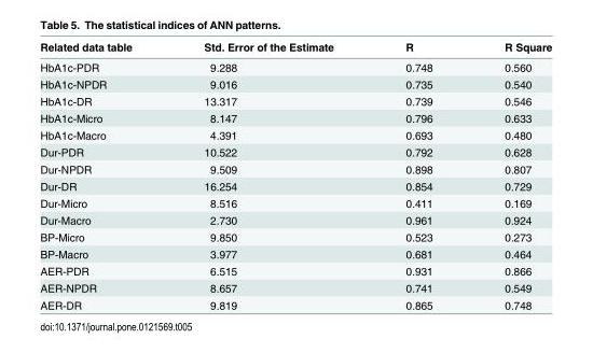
<table><thead><tr><td>Related data table</td><td>Std. Error of the Estimate</td><td>R</td><td>R Square</td></tr></thead><tbody><tr><td>HbA1c-PDR</td><td>9.288</td><td>0.748</td><td>0.560</td></tr><tr><td>HbA1c-NPDR</td><td>9.016</td><td>0.735</td><td>0.540</td></tr><tr><td>HbA1c-DR</td><td>13.317</td><td>0.739</td><td>0.546</td></tr><tr><td>HbA1c-Micro</td><td>8.147</td><td>0.796</td><td>0.633</td></tr><tr><td>HbA1c-Macro</td><td>4.391</td><td>0.693</td><td>0.480</td></tr><tr><td>Dur-PDR</td><td>10.522</td><td>0.792</td><td>0.628</td></tr><tr><td>Dur-NPDR</td><td>9.509</td><td>0.898</td><td>0.807</td></tr><tr><td>Dur-DR</td><td>16.254</td><td>0.854</td><td>0.729</td></tr><tr><td>Dur-Micro</td><td>8.516</td><td>0.411</td><td>0.169</td></tr><tr><td>Dur-Macro</td><td>2.730</td><td>0.961</td><td>0.924</td></tr><tr><td>BP-Micro</td><td>9.850</td><td>0.523</td><td>0.273</td></tr><tr><td>BP-Macro</td><td>3.977</td><td>0.681</td><td>0.464</td></tr><tr><td>AER-PDR</td><td>6.515</td><td>0.931</td><td>0.866</td></tr><tr><td>AER-NPDR</td><td>8.657</td><td>0.741</td><td>0.549</td></tr><tr><td>AER-DR</td><td>9.819</td><td>0.865</td><td>0.748</td></tr></tbody></table>